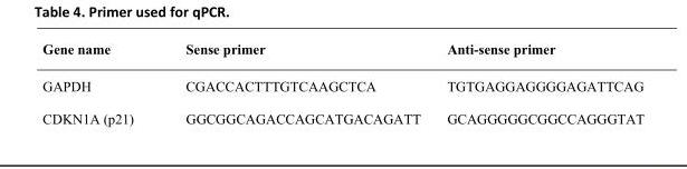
<table><tbody><tr><td>Gene name</td><td>Sense primer</td><td>Anti-sense primer</td></tr><tr><td>GAPDH</td><td>CGACCACTTTGTCAAGCTCA</td><td>TGTGAGGAGGGGAGATTCAG</td></tr><tr><td>CDKN1A (p21)</td><td>GGCGGCAGACCAGCATGACAGATT</td><td>GCAGGGGGCGGCCAGGGTAT</td></tr></tbody></table>